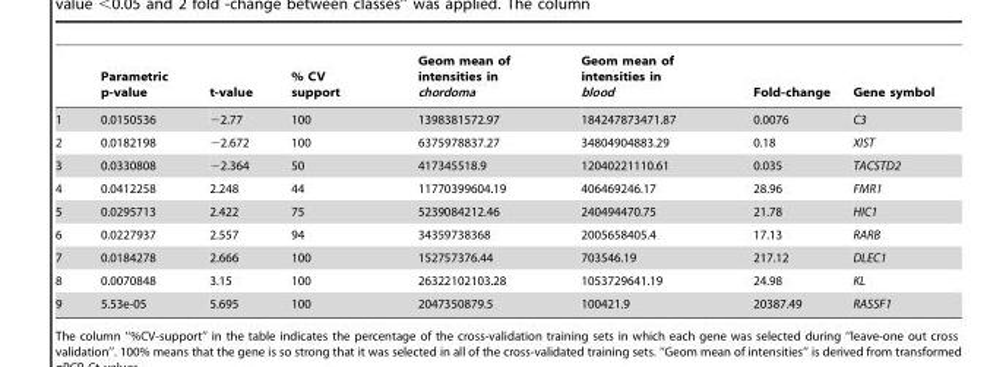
<table><thead><tr><td></td><td>Parametric p-value</td><td>t-value</td><td>% CV support</td><td>Geom mean of intensities in chordoma</td><td>Geom mean of intensities in blood</td><td>Fold-change</td><td>Gene symbol</td></tr></thead><tbody><tr><td>1</td><td>0.0150536</td><td>−2.77</td><td>100</td><td>1398381572.97</td><td>184247873471.87</td><td>0.0076</td><td>C3</td></tr><tr><td>2</td><td>0.0182198</td><td>−2.672</td><td>100</td><td>6375978837.27</td><td>34804904883.29</td><td>0.18</td><td>XIST</td></tr><tr><td>3</td><td>0.0330808</td><td>−2.364</td><td>50</td><td>417345518.9</td><td>12040221110.61</td><td>0.035</td><td>TACSTD2</td></tr><tr><td>4</td><td>0.0412258</td><td>2.248</td><td>44</td><td>11770399604.19</td><td>406469246.17</td><td>28.96</td><td>FMR1</td></tr><tr><td>5</td><td>0.0295713</td><td>2.422</td><td>75</td><td>5239084212.46</td><td>240494470.75</td><td>21.78</td><td>HIC1</td></tr><tr><td>6</td><td>0.0227937</td><td>2.557</td><td>94</td><td>34359738368</td><td>2005658405.4</td><td>17.13</td><td>RARB</td></tr><tr><td>7</td><td>0.0184278</td><td>2.666</td><td>100</td><td>152757376.44</td><td>703546.19</td><td>217.12</td><td>DLEC1</td></tr><tr><td>8</td><td>0.0070848</td><td>3.15</td><td>100</td><td>26322102103.28</td><td>1053729641.19</td><td>24.98</td><td>KL</td></tr><tr><td>9</td><td>5.53e-05</td><td>5.695</td><td>100</td><td>2047350879.5</td><td>100421.9</td><td>20387.49</td><td>RASSF1</td></tr></tbody></table>